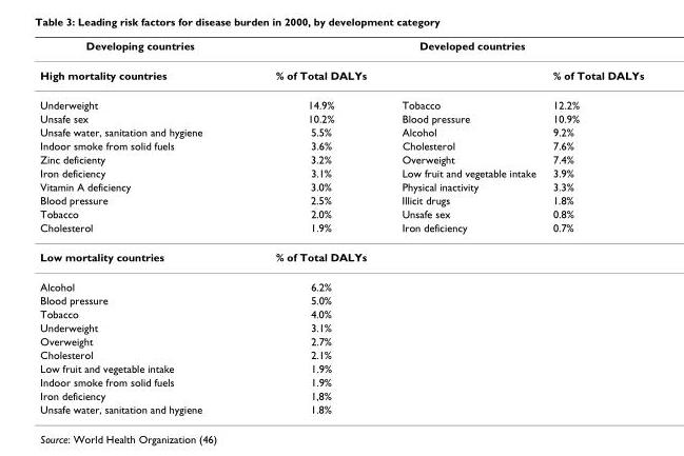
<table><thead><tr><td>Developing countries</td><td></td><td>Developed countries</td><td></td></tr></thead><tbody><tr><td>High mortality countries</td><td>% of Total DALYs</td><td></td><td>% of Total DALYs</td></tr><tr><td>Underweight</td><td>14.9%</td><td>Tobacco</td><td>12.2%</td></tr><tr><td>Unsafe sex</td><td>10.2%</td><td>Blood pressure</td><td>10.9%</td></tr><tr><td>Unsafe water, sanitation and hygiene</td><td>5.5%</td><td>Alcohol</td><td>9.2%</td></tr><tr><td>Indoor smoke from solid fuels</td><td>3.6%</td><td>Cholesterol</td><td>7.6%</td></tr><tr><td>Zinc deficienty</td><td>3.2%</td><td>Overweight</td><td>7.4%</td></tr><tr><td>Iron deficiency</td><td>3.1%</td><td>Low fruit and vegetable intake</td><td>3.9%</td></tr><tr><td>Vitamin A deficiency</td><td>3.0%</td><td>Physical inactivity</td><td>3.3%</td></tr><tr><td>Blood pressure</td><td>2.5%</td><td>Illicit drugs</td><td>1.8%</td></tr><tr><td>Tobacco</td><td>2.0%</td><td>Unsafe sex</td><td>0.8%</td></tr><tr><td>Cholesterol</td><td>1.9%</td><td>Iron deficiency</td><td>0.7%</td></tr><tr><td>Low mortality countries</td><td>% of Total DALYs</td><td></td><td></td></tr><tr><td>Alcohol</td><td>6.2%</td><td></td><td></td></tr><tr><td>Blood pressure</td><td>5.0%</td><td></td><td></td></tr><tr><td>Tobacco</td><td>4.0%</td><td></td><td></td></tr><tr><td>Underweight</td><td>3.1%</td><td></td><td></td></tr><tr><td>Overweight</td><td>2.7%</td><td></td><td></td></tr><tr><td>Cholesterol</td><td>2.1%</td><td></td><td></td></tr><tr><td>Low fruit and vegetable intake</td><td>1.9%</td><td></td><td></td></tr><tr><td>Indoor smoke from solid fuels</td><td>1.9%</td><td></td><td></td></tr><tr><td>Iron deficiency</td><td>1,8%</td><td></td><td></td></tr><tr><td>Unsafe water, sanitation and hygiene</td><td>1.8%</td><td></td><td></td></tr></tbody></table>